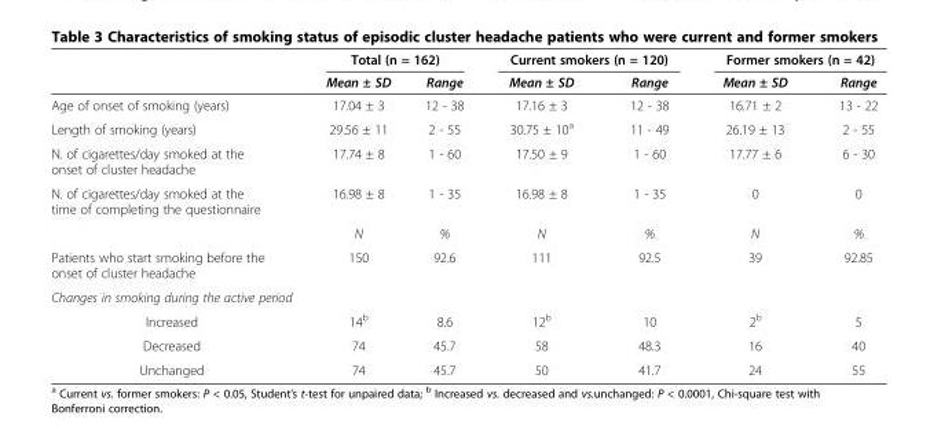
<table><thead><tr><td rowspan="2"></td><td colspan="2">Total (n = 162)</td><td colspan="2">Current smokers (n = 120)</td><td colspan="2">Former smokers (n = 42)</td></tr><tr><td>Mean ± SD</td><td>Range</td><td>Mean ± SD</td><td>Range</td><td>Mean ± SD</td><td>Range</td></tr></thead><tbody><tr><td>Age of onset of smoking (years)</td><td>17.04 ± 3</td><td>12 - 38</td><td>17.16 ± 3</td><td>12 - 38</td><td>16.71 ± 2</td><td>13 - 22</td></tr><tr><td>Length of smoking (years)</td><td>29.56 ± 11</td><td>2 - 55</td><td>30.75 ± 10<sup>a</sup></td><td>11 - 49</td><td>26.19 ± 13</td><td>2 - 55</td></tr><tr><td>N. of cigarettes/day smoked at the onset of cluster headache</td><td>17.74 ± 8</td><td>1 - 60</td><td>17.50 ± 9</td><td>1 - 60</td><td>17.77 ± 6</td><td>6 - 30</td></tr><tr><td rowspan="2">N. of cigarettes/day smoked at the time of completing the questionnaire</td><td>16.98 ± 8</td><td>1 - 35</td><td>16.98 ± 8</td><td>1 - 35</td><td>0</td><td>0</td></tr><tr><td>N</td><td>%</td><td>N</td><td>%</td><td>N</td><td>%</td></tr><tr><td>Patients who start smoking before the onset of cluster headache</td><td>150</td><td>92.6</td><td>111</td><td>92.5</td><td>39</td><td>92.85</td></tr><tr><td colspan="7">Changes in smoking during the active period</td></tr><tr><td>Increased</td><td>14<sup>b</sup></td><td>8.6</td><td>12<sup>b</sup></td><td>10</td><td>2<sup>b</sup></td><td>5</td></tr><tr><td>Decreased</td><td>74</td><td>45.7</td><td>58</td><td>48.3</td><td>16</td><td>40</td></tr><tr><td>Unchanged</td><td>74</td><td>45.7</td><td>50</td><td>41.7</td><td>24</td><td>55</td></tr></tbody></table>